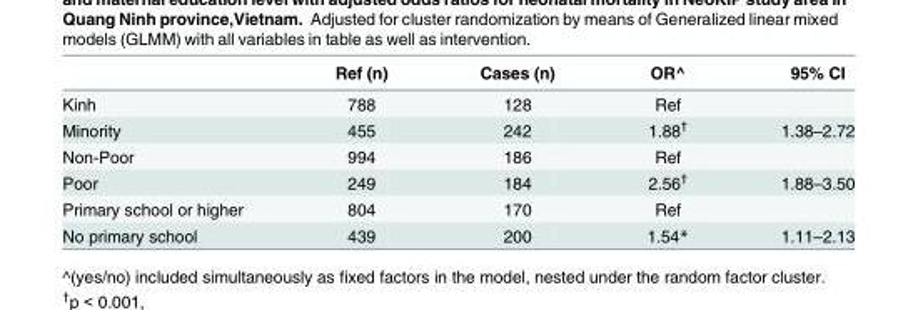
<table><thead><tr><td></td><td>Ref (n)</td><td>Cases (n)</td><td>OR^</td><td>95% CI</td></tr></thead><tbody><tr><td>Kinh</td><td>788</td><td>128</td><td>Ref</td><td></td></tr><tr><td>Minority</td><td>455</td><td>242</td><td>1.88<sup>†</sup></td><td>1.38–2.72</td></tr><tr><td>Non-Poor</td><td>994</td><td>186</td><td>Ref</td><td></td></tr><tr><td>Poor</td><td>249</td><td>184</td><td>2.56<sup>†</sup></td><td>1.88–3.50</td></tr><tr><td>Primary school or higher</td><td>804</td><td>170</td><td>Ref</td><td></td></tr><tr><td>No primary school</td><td>439</td><td>200</td><td>1.54*</td><td>1.11–2.13</td></tr></tbody></table>